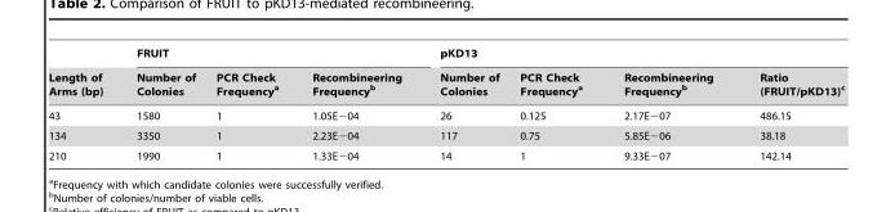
<table><thead><tr><td rowspan="2">Length of Arms (bp)</td><td colspan="3">FRUIT</td><td colspan="4">pKD13</td></tr><tr><td>Number of Colonies</td><td>PCR Check Frequency<sup>a</sup></td><td>Recombineering Frequency<sup>b</sup></td><td>Number of Colonies</td><td>PCR Check Frequency<sup>a</sup></td><td>Recombineering Frequency<sup>b</sup></td><td>Ratio (FRUIT/pKD13)<sup>c</sup></td></tr></thead><tbody><tr><td>43</td><td>1580</td><td>1</td><td>1.05E−04</td><td>26</td><td>0.125</td><td>2.17E−07</td><td>486.15</td></tr><tr><td>134</td><td>3350</td><td>1</td><td>2.23E−04</td><td>117</td><td>0.75</td><td>5.85E−06</td><td>38.18</td></tr><tr><td>210</td><td>1990</td><td>1</td><td>1.33E−04</td><td>14</td><td>1</td><td>9.33E−07</td><td>142.14</td></tr></tbody></table>